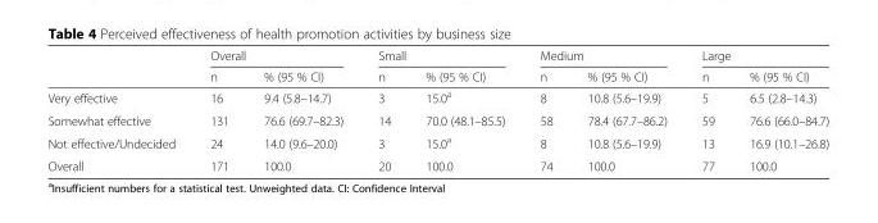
<table><thead><tr><td rowspan="2"></td><td colspan="2">Overall</td><td colspan="2">Small</td><td colspan="2">Medium</td><td colspan="2">Large</td></tr><tr><td>n</td><td>% (95 % CI)</td><td>n</td><td>% (95 % CI)</td><td>n</td><td>% (95 % CI)</td><td>n</td><td>% (95 % CI)</td></tr></thead><tbody><tr><td>Very effective</td><td>16</td><td>9.4 (5.8–14.7)</td><td>3</td><td>15.0<sup>a</sup></td><td>8</td><td>10.8 (5.6–19.9)</td><td>5</td><td>6.5 (2.8–14.3)</td></tr><tr><td>Somewhat effective</td><td>131</td><td>76.6 (69.7–82.3)</td><td>14</td><td>70.0 (48.1–85.5)</td><td>58</td><td>78.4 (67.7–86.2)</td><td>59</td><td>76.6 (66.0–84.7)</td></tr><tr><td>Not effective/Undecided</td><td>24</td><td>14.0 (9.6–20.0)</td><td>3</td><td>15.0<sup>a</sup></td><td>8</td><td>10.8 (5.6–19.9)</td><td>13</td><td>16.9 (10.1–26.8)</td></tr><tr><td>Overall</td><td>171</td><td>100.0</td><td>20</td><td>100.0</td><td>74</td><td>100.0</td><td>77</td><td>100.0</td></tr></tbody></table>